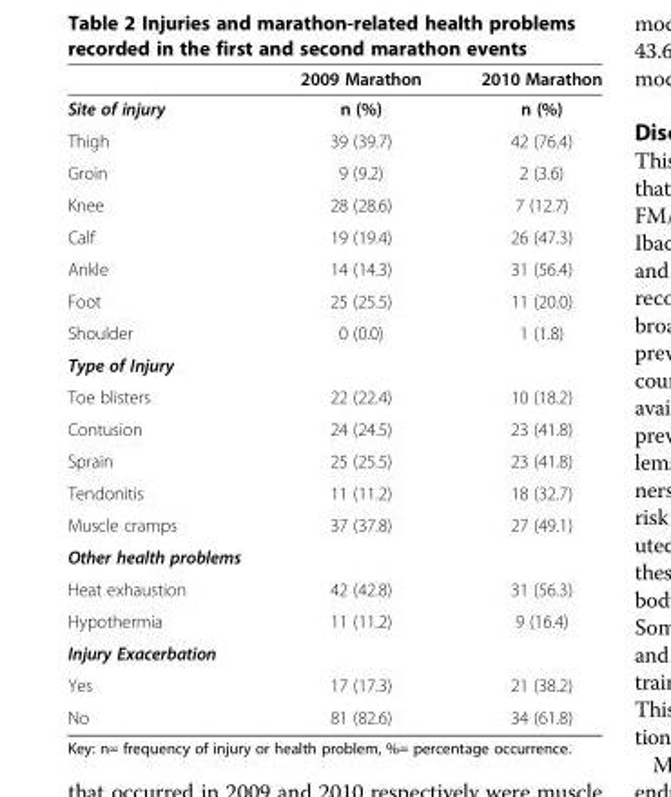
<table><thead><tr><td></td><td>2009 Marathon</td><td>2010 Marathon</td></tr></thead><tbody><tr><td>Site of injury</td><td>n (%)</td><td>n (%)</td></tr><tr><td>Thigh</td><td>39 (39.7)</td><td>42 (76.4)</td></tr><tr><td>Groin</td><td>9 (9.2)</td><td>2 (3.6)</td></tr><tr><td>Knee</td><td>28 (28.6)</td><td>7 (12.7)</td></tr><tr><td>Calf</td><td>19 (19.4)</td><td>26 (47.3)</td></tr><tr><td>Ankle</td><td>14 (14.3)</td><td>31 (56.4)</td></tr><tr><td>Foot</td><td>25 (25.5)</td><td>11 (20.0)</td></tr><tr><td>Shoulder</td><td>0 (0.0)</td><td>1 (1.8)</td></tr><tr><td colspan="3">Type of Injury</td></tr><tr><td>Toe blisters</td><td>22 (22.4)</td><td>10 (18.2)</td></tr><tr><td>Contusion</td><td>24 (24.5)</td><td>23 (41.8)</td></tr><tr><td>Sprain</td><td>25 (25.5)</td><td>23 (41.8)</td></tr><tr><td>Tendonitis</td><td>11 (11.2)</td><td>18 (32.7)</td></tr><tr><td>Muscle cramps</td><td>37 (37.8)</td><td>27 (49.1)</td></tr><tr><td colspan="3">Other health problems</td></tr><tr><td>Heat exhaustion</td><td>42 (42.8)</td><td>31 (56.3)</td></tr><tr><td>Hypothermia</td><td>11 (11.2)</td><td>9 (16.4)</td></tr><tr><td colspan="3">Injury Exacerbation</td></tr><tr><td>Yes</td><td>17 (17.3)</td><td>21 (38.2)</td></tr><tr><td>No</td><td>81 (82.6)</td><td>34 (61.8)</td></tr></tbody></table>